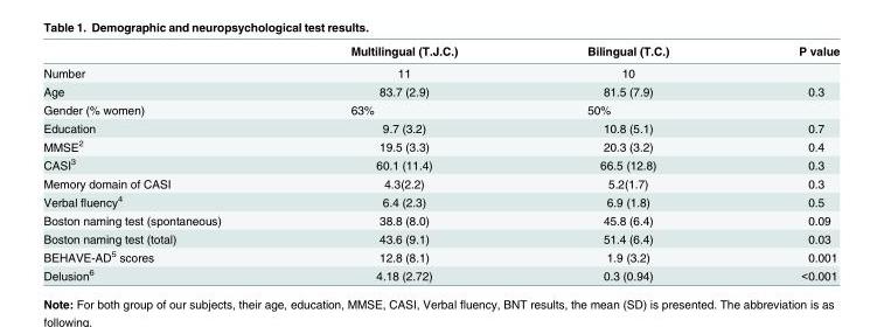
<table><thead><tr><td></td><td>Multilingual (T.J.C.)</td><td>Bilingual (T.C.)</td><td>P value</td></tr></thead><tbody><tr><td>Number</td><td>11</td><td>10</td><td></td></tr><tr><td>Age</td><td>83.7 (2.9)</td><td>81.5 (7.9)</td><td>0.3</td></tr><tr><td>Gender (% women)</td><td>63%</td><td>50%</td><td></td></tr><tr><td>Education</td><td>9.7 (3.2)</td><td>10.8 (5.1)</td><td>0.7</td></tr><tr><td>MMSE<sup>2</sup></td><td>19.5 (3.3)</td><td>20.3 (3.2)</td><td>0.4</td></tr><tr><td>CASI<sup>3</sup></td><td>60.1 (11.4)</td><td>66.5 (12.8)</td><td>0.3</td></tr><tr><td>Memory domain of CASI</td><td>4.3(2.2)</td><td>5.2(1.7)</td><td>0.3</td></tr><tr><td>Verbal fluency<sup>4</sup></td><td>6.4 (2.3)</td><td>6.9 (1.8)</td><td>0.5</td></tr><tr><td>Boston naming test (spontaneous)</td><td>38.8 (8.0)</td><td>45.8 (6.4)</td><td>0.09</td></tr><tr><td>Boston naming test (total)</td><td>43.6 (9.1)</td><td>51.4 (6.4)</td><td>0.03</td></tr><tr><td>BEHAVE-AD<sup>5</sup> scores</td><td>12.8 (8.1)</td><td>1.9 (3.2)</td><td>0.001</td></tr><tr><td>Delusion<sup>6</sup></td><td>4.18 (2.72)</td><td>0.3 (0.94)</td><td>&lt;0.001</td></tr></tbody></table>